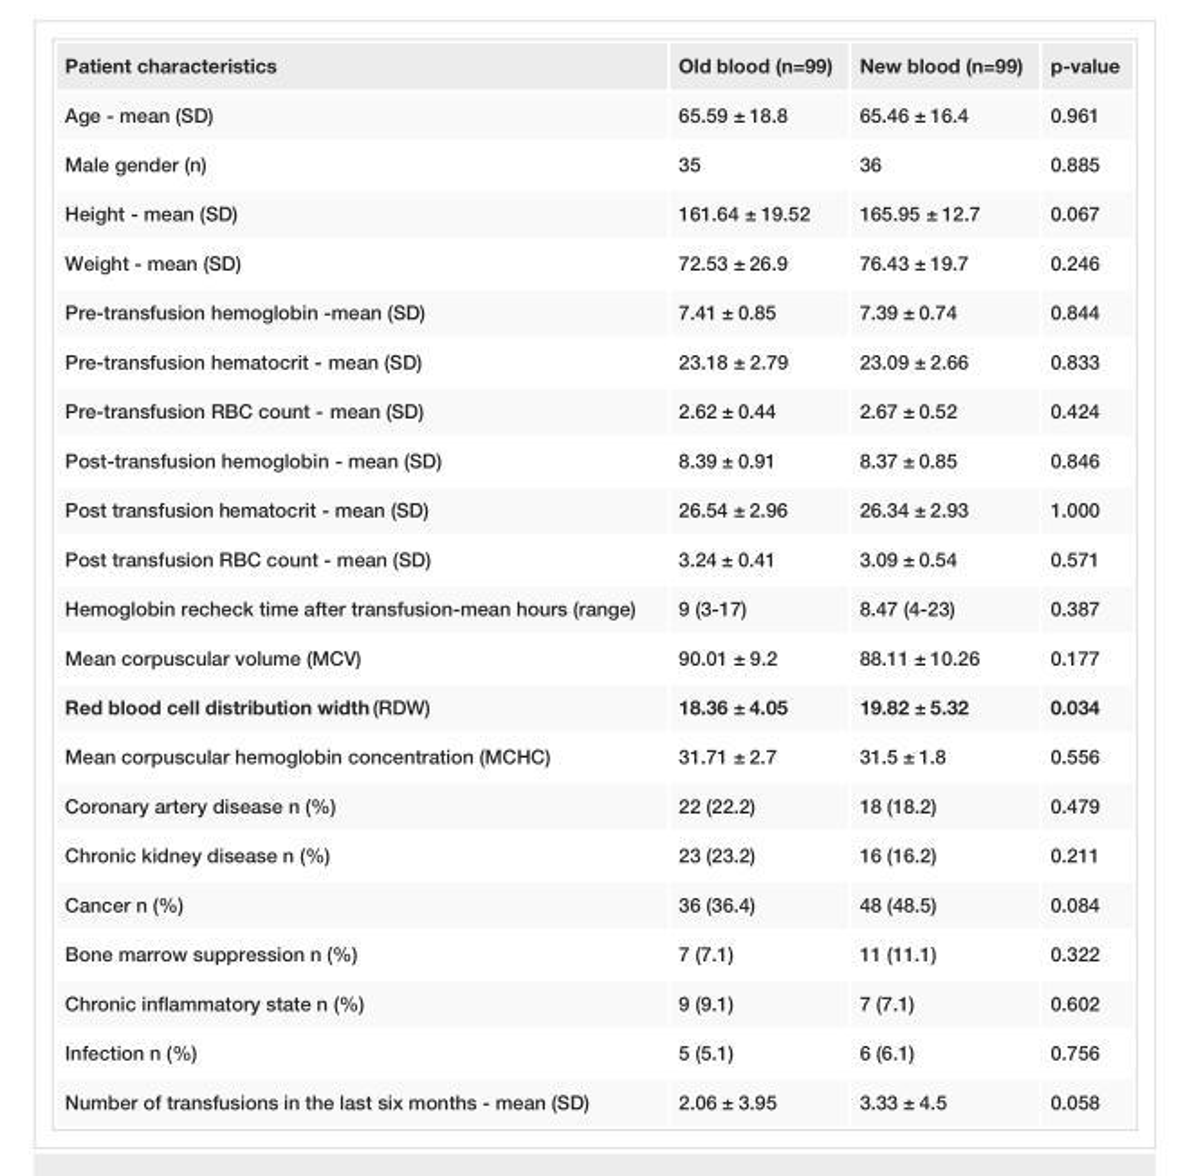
<table><tbody><tr><td>Patient characteristics</td><td>Old blood (n=99)</td><td>New blood (n=99)</td><td>p-value</td></tr><tr><td>Age - mean (SD)</td><td>65.59 ± 18.8</td><td>65.46 ± 16.4</td><td>0.961</td></tr><tr><td>Male gender (n)</td><td>35</td><td>36</td><td>0.885</td></tr><tr><td>Height - mean (SD)</td><td>161.64 ± 19.52</td><td>165.95 ± 12.7</td><td>0.067</td></tr><tr><td>Weight - mean (SD)</td><td>72.53 ± 26.9</td><td>76.43 ± 19.7</td><td>0.246</td></tr><tr><td>Pre-transfusion hemoglobin -mean (SD)</td><td>7.41 ± 0.85</td><td>7.39 ± 0.74</td><td>0.844</td></tr><tr><td>Pre-transfusion hematocrit - mean (SD)</td><td>23.18 ± 2.79</td><td>23.09 ± 2.66</td><td>0.833</td></tr><tr><td>Pre-transfusion RBC count - mean (SD)</td><td>2.62 ± 0.44</td><td>2.67 ± 0.52</td><td>0.424</td></tr><tr><td>Post-transfusion hemoglobin - mean (SD)</td><td>8.39 ± 0.91</td><td>8.37 ± 0.85</td><td>0.846</td></tr><tr><td>Post transfusion hematocrit - mean (SD)</td><td>26.54 ± 2.96</td><td>26.34 ± 2.93</td><td>1.000</td></tr><tr><td>Post transfusion RBC count - mean (SD)</td><td>3.24 ± 0.41</td><td>3.09 ± 0.54</td><td>0.571</td></tr><tr><td>Hemoglobin recheck time after transfusion-mean hours (range)</td><td>9 (3-17)</td><td>8.47 (4-23)</td><td>0.387</td></tr><tr><td>Mean corpuscular volume (MCV)</td><td>90.01 ± 9.2</td><td>88.11 ± 10.26</td><td>0.177</td></tr><tr><td>Red blood cell distribution width (RDW)</td><td>18.36 ± 4.05</td><td>19.82 ± 5.32</td><td>0.034</td></tr><tr><td>Mean corpuscular hemoglobin concentration (MCHC)</td><td>31.71 ± 2.7</td><td>31.5 ± 1.8</td><td>0.556</td></tr><tr><td>Coronary artery disease n (%)</td><td>22 (22.2)</td><td>18 (18.2)</td><td>0.479</td></tr><tr><td>Chronic kidney disease n (%)</td><td>23 (23.2)</td><td>16 (16.2)</td><td>0.211</td></tr><tr><td>Cancer n (%)</td><td>36 (36.4)</td><td>48 (48.5)</td><td>0.084</td></tr><tr><td>Bone marrow suppression n (%)</td><td>7 (7.1)</td><td>11 (11.1)</td><td>0.322</td></tr><tr><td>Chronic inflammatory state n (%)</td><td>9 (9.1)</td><td>7 (7.1)</td><td>0.602</td></tr><tr><td>Infection n (%)</td><td>5 (5.1)</td><td>6 (6.1)</td><td>0.756</td></tr><tr><td>Number of transfusions in the last six months - mean (SD)</td><td>2.06 ± 3.95</td><td>3.33 ± 4.5</td><td>0.058</td></tr></tbody></table>